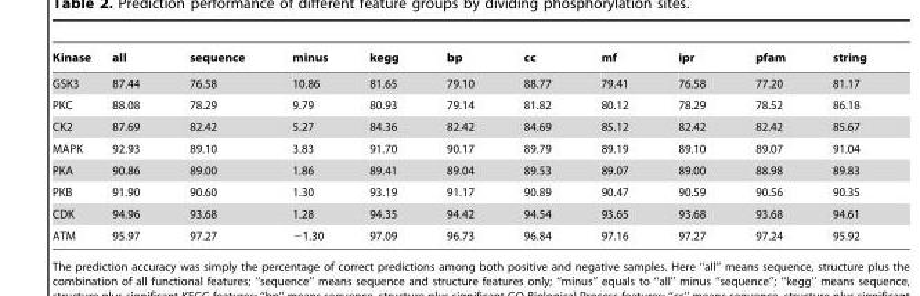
<table><thead><tr><td>Kinase</td><td>all</td><td>sequence</td><td>minus</td><td>kegg</td><td>bp</td><td>cc</td><td>mf</td><td>ipr</td><td>pfam</td><td>string</td></tr></thead><tbody><tr><td>GSK3</td><td>87.44</td><td>76.58</td><td>10.86</td><td>81.65</td><td>79.10</td><td>88.77</td><td>79.41</td><td>76.58</td><td>77.20</td><td>81.17</td></tr><tr><td>PKC</td><td>88.08</td><td>78.29</td><td>9.79</td><td>80.93</td><td>79.14</td><td>81.82</td><td>80.12</td><td>78.29</td><td>78.52</td><td>86.18</td></tr><tr><td>CK2</td><td>87.69</td><td>82.42</td><td>5.27</td><td>84.36</td><td>82.42</td><td>84.69</td><td>85.12</td><td>82.42</td><td>82.42</td><td>85.67</td></tr><tr><td>MAPK</td><td>92.93</td><td>89.10</td><td>3.83</td><td>91.70</td><td>90.17</td><td>89.79</td><td>89.19</td><td>89.10</td><td>89.07</td><td>91.04</td></tr><tr><td>PKA</td><td>90.86</td><td>89.00</td><td>1.86</td><td>89.41</td><td>89.04</td><td>89.53</td><td>89.07</td><td>89.00</td><td>88.98</td><td>89.83</td></tr><tr><td>PKB</td><td>91.90</td><td>90.60</td><td>1.30</td><td>93.19</td><td>91.17</td><td>90.89</td><td>90.47</td><td>90.59</td><td>90.56</td><td>90.35</td></tr><tr><td>CDK</td><td>94.96</td><td>93.68</td><td>1.28</td><td>94.35</td><td>94.42</td><td>94.54</td><td>93.65</td><td>93.68</td><td>93.68</td><td>94.61</td></tr><tr><td>ATM</td><td>95.97</td><td>97.27</td><td>−1.30</td><td>97.09</td><td>96.73</td><td>96.84</td><td>97.16</td><td>97.27</td><td>97.24</td><td>95.92</td></tr></tbody></table>